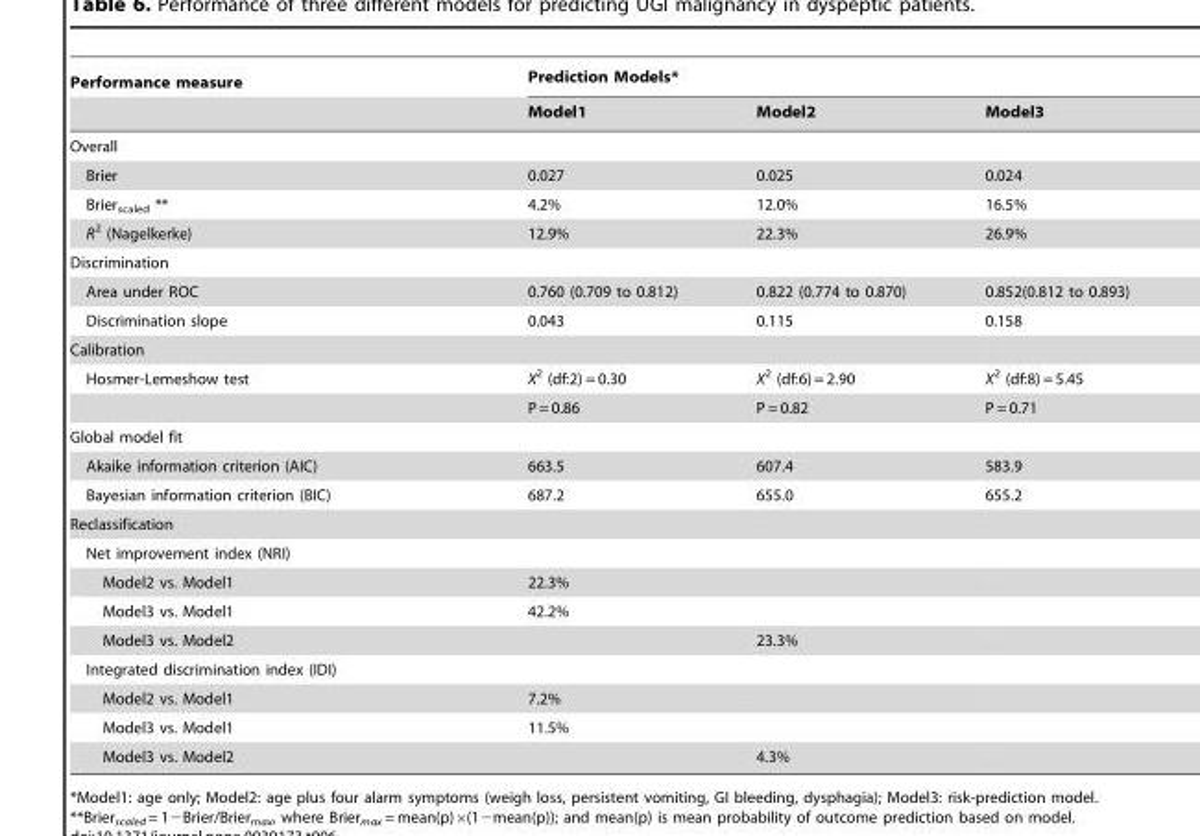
<table><thead><tr><td rowspan="2">Performance measure</td><td colspan="3">Prediction Models*</td></tr><tr><td>Model1</td><td>Model2</td><td>Model3</td></tr></thead><tbody><tr><td colspan="4">Overall</td></tr><tr><td>Brier</td><td>0.027</td><td>0.025</td><td>0.024</td></tr><tr><td>Brier<sub>scaled</sub> **</td><td>4.2%</td><td>12.0%</td><td>16.5%</td></tr><tr><td>R<sup>2</sup> (Nagelkerke)</td><td>12.9%</td><td>22.3%</td><td>26.9%</td></tr><tr><td colspan="4">Discrimination</td></tr><tr><td>Area under ROC</td><td>0.760 (0.709 to 0.812)</td><td>0.822 (0.774 to 0.870)</td><td>0.852(0.812 to 0.893)</td></tr><tr><td>Discrimination slope</td><td>0.043</td><td>0.115</td><td>0.158</td></tr><tr><td colspan="4">Calibration</td></tr><tr><td rowspan="2">Hosmer-Lemeshow test</td><td>X<sup>2</sup> (df:2) = 0.30</td><td>X<sup>2</sup> (df:6) = 2.90</td><td>X<sup>2</sup> (df:8) = 5.45</td></tr><tr><td>P = 0.86</td><td>P = 0.82</td><td>P = 0.71</td></tr><tr><td colspan="4">Global model fit</td></tr><tr><td>Akaike information criterion (AIC)</td><td>663.5</td><td>607.4</td><td>583.9</td></tr><tr><td>Bayesian information criterion (BIC)</td><td>687.2</td><td>655.0</td><td>655.2</td></tr><tr><td colspan="4">Reclassification</td></tr><tr><td colspan="4">Net improvement index (NRI)</td></tr><tr><td>Model2 vs. Model1</td><td>22.3%</td><td></td><td></td></tr><tr><td>Model3 vs. Model1</td><td>42.2%</td><td></td><td></td></tr><tr><td>Model3 vs. Model2</td><td></td><td>23.3%</td><td></td></tr><tr><td colspan="4">Integrated discrimination index (IDI)</td></tr><tr><td>Model2 vs. Model1</td><td>7.2%</td><td></td><td></td></tr><tr><td>Model3 vs. Model1</td><td>11.5%</td><td></td><td></td></tr><tr><td>Model3 vs. Model2</td><td></td><td>4.3%</td><td></td></tr></tbody></table>